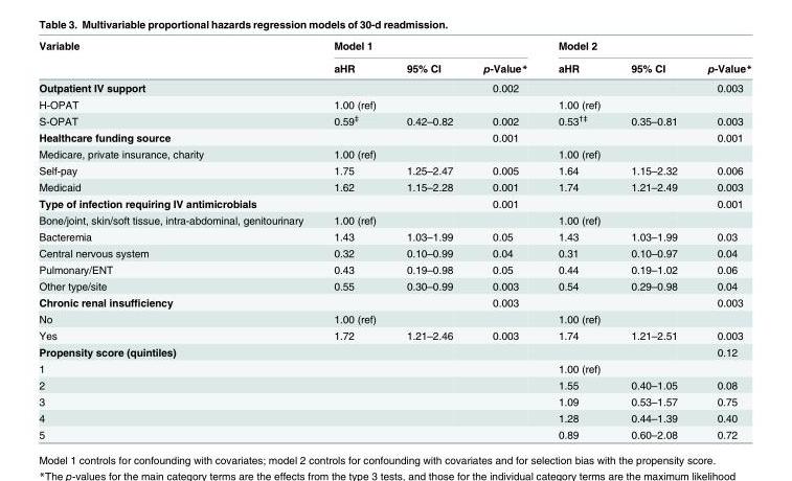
<table><thead><tr><td rowspan="2">Variable</td><td colspan="3">Model 1</td><td colspan="3">Model 2</td></tr><tr><td>aHR</td><td>95% CI</td><td>p-Value*</td><td>aHR</td><td>95% CI</td><td>p-Value*</td></tr></thead><tbody><tr><td>Outpatient IV support</td><td></td><td></td><td>0.002</td><td></td><td></td><td>0.003</td></tr><tr><td>H-OPAT</td><td>1.00 (ref)</td><td></td><td></td><td>1.00 (ref)</td><td></td><td></td></tr><tr><td>S-OPAT</td><td>0.59<sup>‡</sup></td><td>0.42–0.82</td><td>0.002</td><td>0.53<sup>†‡</sup></td><td>0.35–0.81</td><td>0.003</td></tr><tr><td>Healthcare funding source</td><td></td><td></td><td>0.001</td><td></td><td></td><td>0.001</td></tr><tr><td>Medicare, private insurance, charity</td><td>1.00 (ref)</td><td></td><td></td><td>1.00 (ref)</td><td></td><td></td></tr><tr><td>Self-pay</td><td>1.75</td><td>1.25–2.47</td><td>0.005</td><td>1.64</td><td>1.15–2.32</td><td>0.006</td></tr><tr><td>Medicaid</td><td>1.62</td><td>1.15–2.28</td><td>0.001</td><td>1.74</td><td>1.21–2.49</td><td>0.003</td></tr><tr><td>Type of infection requiring IV antimicrobials</td><td></td><td></td><td>0.001</td><td></td><td></td><td>0.001</td></tr><tr><td>Bone/joint, skin/soft tissue, intra-abdominal, genitourinary</td><td>1.00 (ref)</td><td></td><td></td><td>1.00 (ref)</td><td></td><td></td></tr><tr><td>Bacteremia</td><td>1.43</td><td>1.03–1.99</td><td>0.05</td><td>1.43</td><td>1.03–1.99</td><td>0.03</td></tr><tr><td>Central nervous system</td><td>0.32</td><td>0.10–0.99</td><td>0.04</td><td>0.31</td><td>0.10–0.97</td><td>0.04</td></tr><tr><td>Pulmonary/ENT</td><td>0.43</td><td>0.19–0.98</td><td>0.05</td><td>0.44</td><td>0.19–1.02</td><td>0.06</td></tr><tr><td>Other type/site</td><td>0.55</td><td>0.30–0.99</td><td>0.003</td><td>0.54</td><td>0.29–0.98</td><td>0.04</td></tr><tr><td>Chronic renal insufficiency</td><td></td><td></td><td>0.003</td><td></td><td></td><td>0.003</td></tr><tr><td>No</td><td>1.00 (ref)</td><td></td><td></td><td>1.00 (ref)</td><td></td><td></td></tr><tr><td>Yes</td><td>1.72</td><td>1.21–2.46</td><td>0.003</td><td>1.74</td><td>1.21–2.51</td><td>0.003</td></tr><tr><td>Propensity score (quintiles)</td><td></td><td></td><td></td><td></td><td></td><td>0.12</td></tr><tr><td>1</td><td></td><td></td><td></td><td>1.00 (ref)</td><td></td><td></td></tr><tr><td>2</td><td></td><td></td><td></td><td>1.55</td><td>0.40–1.05</td><td>0.08</td></tr><tr><td>3</td><td></td><td></td><td></td><td>1.09</td><td>0.53–1.57</td><td>0.75</td></tr><tr><td>4</td><td></td><td></td><td></td><td>1.28</td><td>0.44–1.39</td><td>0.40</td></tr><tr><td>5</td><td></td><td></td><td></td><td>0.89</td><td>0.60–2.08</td><td>0.72</td></tr></tbody></table>